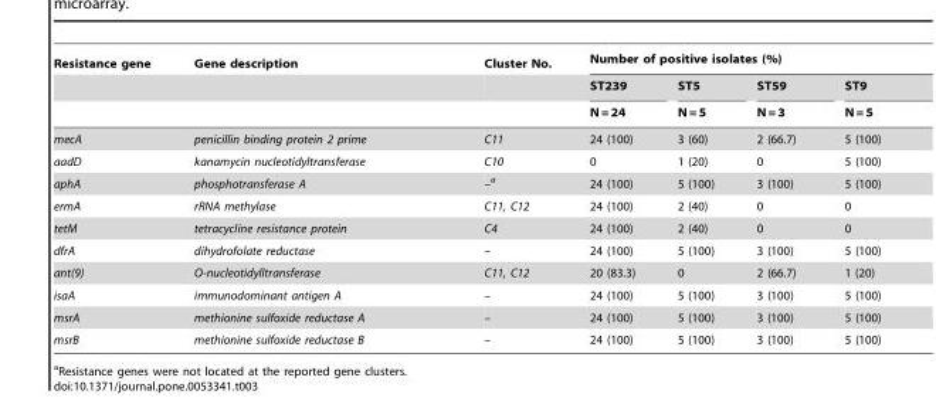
<table><thead><tr><td rowspan="3">Resistance gene</td><td rowspan="3">Gene description</td><td rowspan="3">Cluster No.</td><td colspan="4">Number of positive isolates (%)</td></tr><tr><td rowspan="2">ST239 N = 24</td><td rowspan="2">ST5 N = 5</td><td rowspan="2">ST59 N = 3</td><td rowspan="2">ST9 N = 5</td></tr><tr></tr></thead><tbody><tr><td>mecA</td><td>penicillin binding protein 2 prime</td><td>C11</td><td>24 (100)</td><td>3 (60)</td><td>2 (66.7)</td><td>5 (100)</td></tr><tr><td>aadD</td><td>kanamycin nucleotidyltransferase</td><td>C10</td><td>0</td><td>1 (20)</td><td>0</td><td>5 (100)</td></tr><tr><td>aphA</td><td>phosphotransferase A</td><td>–a</td><td>24 (100)</td><td>5 (100)</td><td>3 (100)</td><td>5 (100)</td></tr><tr><td>ermA</td><td>rRNA methylase</td><td>C11, C12</td><td>24 (100)</td><td>2 (40)</td><td>0</td><td>0</td></tr><tr><td>tetM</td><td>tetracycline resistance protein</td><td>C4</td><td>24 (100)</td><td>2 (40)</td><td>0</td><td>0</td></tr><tr><td>dfrA</td><td>dihydrofolate reductase</td><td>–</td><td>24 (100)</td><td>5 (100)</td><td>3 (100)</td><td>5 (100)</td></tr><tr><td>ant(9)</td><td>O-nucleotidylltransferase</td><td>C11, C12</td><td>20 (83.3)</td><td>0</td><td>2 (66.7)</td><td>1 (20)</td></tr><tr><td>isaA</td><td>immunodominant antigen A</td><td>–</td><td>24 (100)</td><td>5 (100)</td><td>3 (100)</td><td>5 (100)</td></tr><tr><td>msrA</td><td>methionine sulfoxide reductase A</td><td>–</td><td>24 (100)</td><td>5 (100)</td><td>3 (100)</td><td>5 (100)</td></tr><tr><td>msrB</td><td>methionine sulfoxide reductase B</td><td>–</td><td>24 (100)</td><td>5 (100)</td><td>3 (100)</td><td>5 (100)</td></tr></tbody></table>